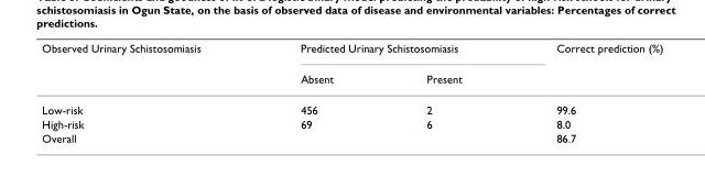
<table><thead><tr><td rowspan="2">Observed Urinary Schistosomiasis</td><td colspan="2">Predicted Urinary Schistosomiasis</td><td rowspan="2">Correct prediction (%)</td></tr><tr><td>Absent</td><td>Present</td></tr></thead><tbody><tr><td>Low-risk</td><td>456</td><td>2</td><td>99.6</td></tr><tr><td>High-risk</td><td>69</td><td>6</td><td>8.0</td></tr><tr><td>Overall</td><td></td><td></td><td>86.7</td></tr></tbody></table>